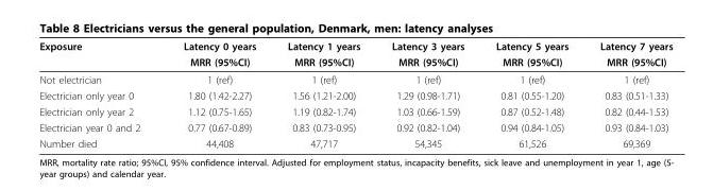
<table><thead><tr><td rowspan="2">Exposure</td><td rowspan="2">Latency 0 years MRR (95%CI)</td><td rowspan="2">Latency 1 years MRR (95%CI)</td><td rowspan="2">Latency 3 years MRR (95%CI)</td><td rowspan="2">Latency 5 years MRR (95%CI)</td><td rowspan="2">Latency 7 years MRR (95%CI)</td></tr><tr></tr></thead><tbody><tr><td>Not electrician</td><td>1 (ref)</td><td>1 (ref)</td><td>1 (ref)</td><td>1 (ref)</td><td>1 (ref)</td></tr><tr><td>Electrician only year 0</td><td>1.80 (1.42-2.27)</td><td>1.56 (1.21-2.00)</td><td>1.29 (0.98-1.71)</td><td>0.81 (0.55-1.20)</td><td>0.83 (0.51-1.33)</td></tr><tr><td>Electrician only year 2</td><td>1.12 (0.75-1.65)</td><td>1.19 (0.82-1.74)</td><td>1.03 (0.66-1.59)</td><td>0.87 (0.52-1.48)</td><td>0.82 (0.44-1.53)</td></tr><tr><td>Electrician year 0 and 2</td><td>0.77 (0.67-0.89)</td><td>0.83 (0.73-0.95)</td><td>0.92 (0.82-1.04)</td><td>0.94 (0.84-1.05)</td><td>0.93 (0.84-1.03)</td></tr><tr><td>Number died</td><td>44,408</td><td>47,717</td><td>54,345</td><td>61,526</td><td>69,369</td></tr></tbody></table>